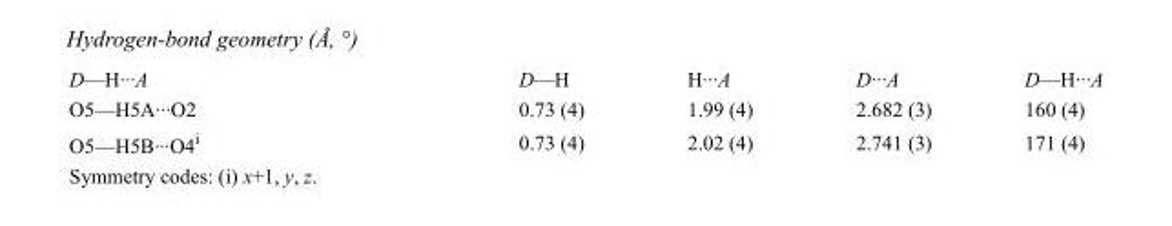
<table><tbody><tr><td>D—H···A</td><td>D—H</td><td>H···A</td><td>D···A</td><td>D—H···A</td></tr><tr><td>O5—H5A···O2</td><td>0.73 (4)</td><td>1.99 (4)</td><td>2.682 (3)</td><td>160 (4)</td></tr><tr><td>O5—H5B···O4<sup>i</sup></td><td>0.73 (4)</td><td>2.02 (4)</td><td>2.741 (3)</td><td>171 (4)</td></tr></tbody></table>